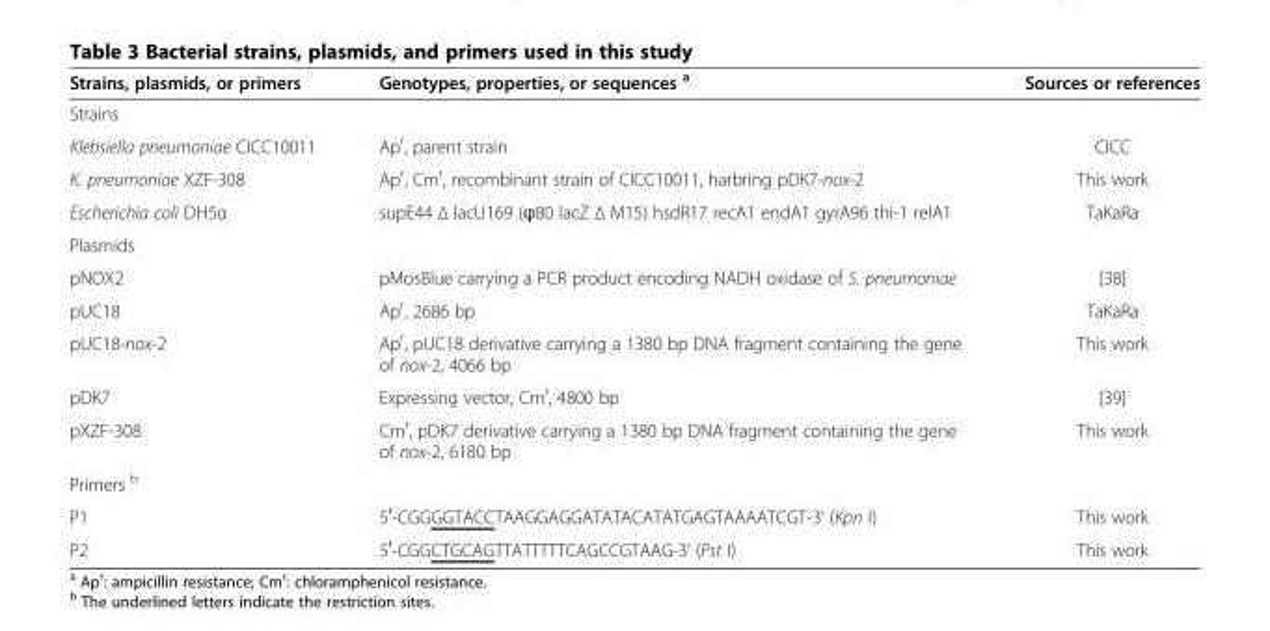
<table><thead><tr><td>Strains, plasmids, or primers</td><td>Genotypes, properties, or sequences <sup>a</sup></td><td>Sources or references</td></tr></thead><tbody><tr><td colspan="3">Strains</td></tr><tr><td>Klebsiella pneumoniae CICC10011</td><td>Ap<sup>r</sup>, parent strain</td><td>CICC</td></tr><tr><td>K. pneumoniae XZF-308</td><td>Ap<sup>r</sup>, Cm<sup>r</sup>, recombinant strain of CICC10011, harbring pDK7-nox-2</td><td>This work</td></tr><tr><td>Escherichia coli DH5α</td><td>supE44 Δ lacU169 (ϕ80 lacZ Δ M15) hsdR17 recA1 endA1 gyrA96 thi-1 relA1</td><td>TaKaRa</td></tr><tr><td colspan="3">Plasmids</td></tr><tr><td>pNOX2</td><td>pMosBlue carrying a PCR product encoding NADH oxidase of S. pneumoniae</td><td>[38]</td></tr><tr><td>pUC18</td><td>Ap<sup>r</sup>, 2686 bp</td><td>TaKaRa</td></tr><tr><td>pUC18-nox-2</td><td>Ap<sup>r</sup>, pUC18 derivative carrying a 1380 bp DNA fragment containing the gene of nox-2, 4066 bp</td><td>This work</td></tr><tr><td>pDK7</td><td>Expressing vector, Cm<sup>r</sup>, 4800 bp</td><td>[39]</td></tr><tr><td>pXZF-308</td><td>Cm<sup>r</sup>, pDK7 derivative carrying a 1380 bp DNA fragment containing the gene of nox-2, 6180 bp</td><td>This work</td></tr><tr><td colspan="3">Primers <sup>b</sup></td></tr><tr><td>P1</td><td>5<sup>′</sup>-CGGGGTACCTAAGGAGGATATACATATGAGTAAAATCGT-3’ (Kpn I)</td><td>This work</td></tr><tr><td>P2</td><td>5<sup>′</sup>-CGGCTGCAGTTATTTTTCAGCCGTAAG-3’ (Pst I)</td><td>This work</td></tr></tbody></table>